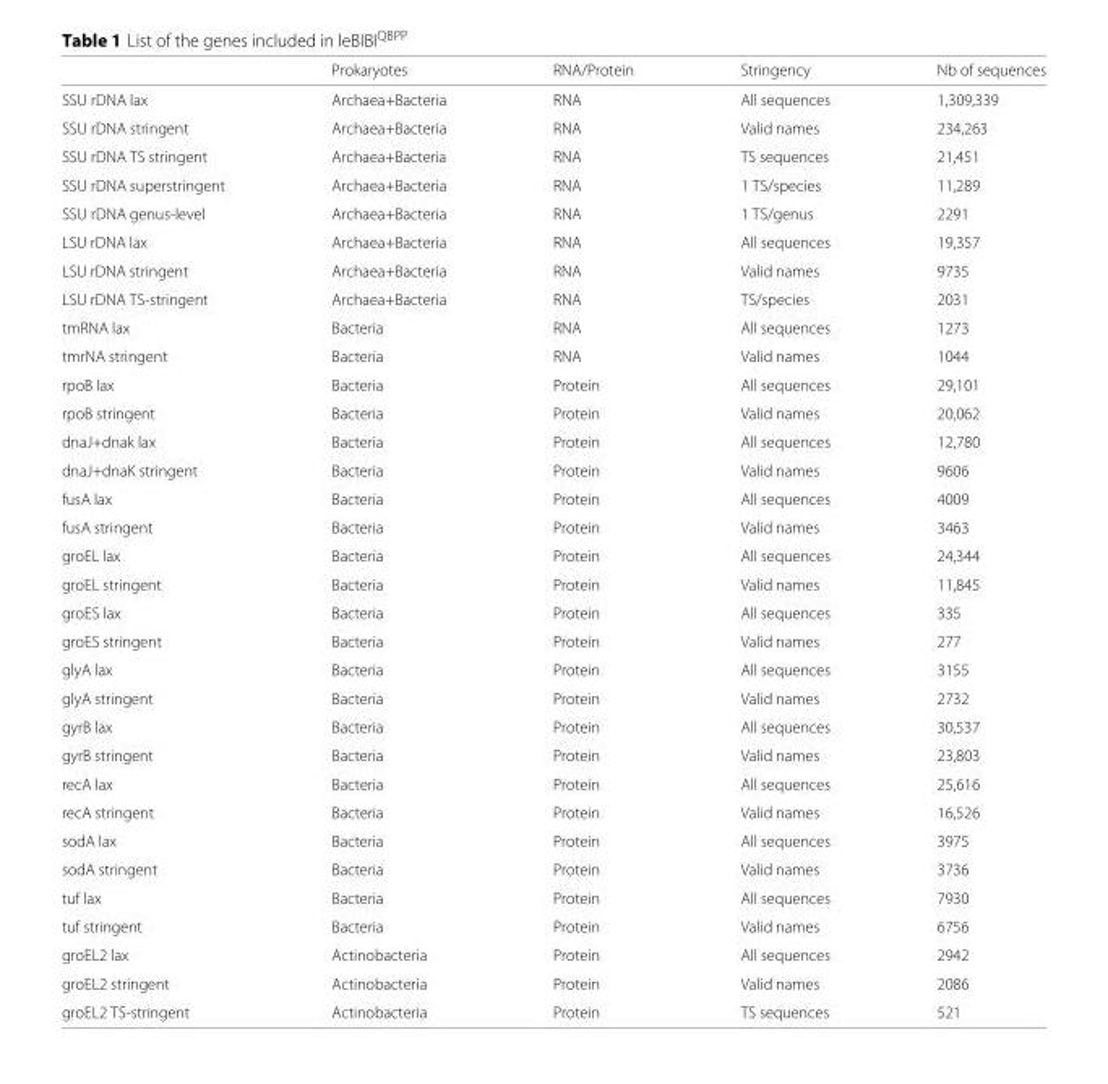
<table><thead><tr><td></td><td>Prokaryotes</td><td>RNA/Protein</td><td>Stringency</td><td>Nb of sequences</td></tr></thead><tbody><tr><td>SSU rDNA lax</td><td>Archaea+Bacteria</td><td>RNA</td><td>All sequences</td><td>1,309,339</td></tr><tr><td>SSU rDNA stringent</td><td>Archaea+Bacteria</td><td>RNA</td><td>Valid names</td><td>234,263</td></tr><tr><td>SSU rDNA TS stringent</td><td>Archaea+Bacteria</td><td>RNA</td><td>TS sequences</td><td>21,451</td></tr><tr><td>SSU rDNA superstringent</td><td>Archaea+Bacteria</td><td>RNA</td><td>1 TS/species</td><td>11,289</td></tr><tr><td>SSU rDNA genus-level</td><td>Archaea+Bacteria</td><td>RNA</td><td>1 TS/genus</td><td>2291</td></tr><tr><td>LSU rDNA lax</td><td>Archaea+Bacteria</td><td>RNA</td><td>All sequences</td><td>19,357</td></tr><tr><td>LSU rDNA stringent</td><td>Archaea+Bacteria</td><td>RNA</td><td>Valid names</td><td>9735</td></tr><tr><td>LSU rDNA TS-stringent</td><td>Archaea+Bacteria</td><td>RNA</td><td>TS/species</td><td>2031</td></tr><tr><td>tmRNA lax</td><td>Bacteria</td><td>RNA</td><td>All sequences</td><td>1273</td></tr><tr><td>tmrNA stringent</td><td>Bacteria</td><td>RNA</td><td>Valid names</td><td>1044</td></tr><tr><td>rpoB lax</td><td>Bacteria</td><td>Protein</td><td>All sequences</td><td>29,101</td></tr><tr><td>rpoB stringent</td><td>Bacteria</td><td>Protein</td><td>Valid names</td><td>20,062</td></tr><tr><td>dnaJ+dnak lax</td><td>Bacteria</td><td>Protein</td><td>All sequences</td><td>12,780</td></tr><tr><td>dnaJ+dnaK stringent</td><td>Bacteria</td><td>Protein</td><td>Valid names</td><td>9606</td></tr><tr><td>fusA lax</td><td>Bacteria</td><td>Protein</td><td>All sequences</td><td>4009</td></tr><tr><td>fusA stringent</td><td>Bacteria</td><td>Protein</td><td>Valid names</td><td>3463</td></tr><tr><td>groEL lax</td><td>Bacteria</td><td>Protein</td><td>All sequences</td><td>24,344</td></tr><tr><td>groEL stringent</td><td>Bacteria</td><td>Protein</td><td>Valid names</td><td>11,845</td></tr><tr><td>groES lax</td><td>Bacteria</td><td>Protein</td><td>All sequences</td><td>335</td></tr><tr><td>groES stringent</td><td>Bacteria</td><td>Protein</td><td>Valid names</td><td>277</td></tr><tr><td>glyA lax</td><td>Bacteria</td><td>Protein</td><td>All sequences</td><td>3155</td></tr><tr><td>glyA stringent</td><td>Bacteria</td><td>Protein</td><td>Valid names</td><td>2732</td></tr><tr><td>gyrB lax</td><td>Bacteria</td><td>Protein</td><td>All sequences</td><td>30,537</td></tr><tr><td>gyrB stringent</td><td>Bacteria</td><td>Protein</td><td>Valid names</td><td>23,803</td></tr><tr><td>recA lax</td><td>Bacteria</td><td>Protein</td><td>All sequences</td><td>25,616</td></tr><tr><td>recA stringent</td><td>Bacteria</td><td>Protein</td><td>Valid names</td><td>16,526</td></tr><tr><td>sodA lax</td><td>Bacteria</td><td>Protein</td><td>All sequences</td><td>3975</td></tr><tr><td>sodA stringent</td><td>Bacteria</td><td>Protein</td><td>Valid names</td><td>3736</td></tr><tr><td>tuf lax</td><td>Bacteria</td><td>Protein</td><td>All sequences</td><td>7930</td></tr><tr><td>tuf stringent</td><td>Bacteria</td><td>Protein</td><td>Valid names</td><td>6756</td></tr><tr><td>groEL2 lax</td><td>Actinobacteria</td><td>Protein</td><td>All sequences</td><td>2942</td></tr><tr><td>groEL2 stringent</td><td>Actinobacteria</td><td>Protein</td><td>Valid names</td><td>2086</td></tr><tr><td>groEL2 TS-stringent</td><td>Actinobacteria</td><td>Protein</td><td>TS sequences</td><td>521</td></tr></tbody></table>